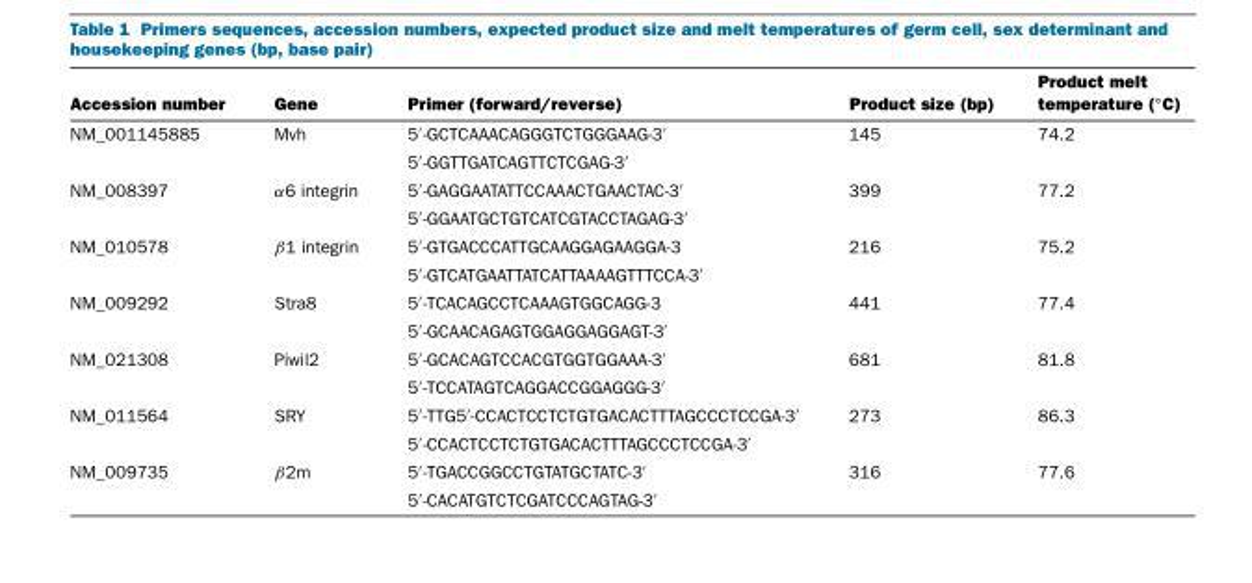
<table><thead><tr><td>Accession number</td><td>Gene</td><td>Primer (forward/reverse)</td><td>Product size (bp)</td><td>Product melt temperature (◦C)</td></tr></thead><tbody><tr><td rowspan="2">NM_001145885</td><td>Mvh</td><td>5′-GCTCAAACAGGGTCTGGGAAG-3′</td><td>145</td><td>74.2</td></tr><tr><td></td><td>5′-GGTTGATCAGTTCTCGAG-3′</td><td></td><td></td></tr><tr><td rowspan="2">NM_008397</td><td>α6 integrin</td><td>5′-GAGGAATATTCCAAACTGAACTAC-3′</td><td>399</td><td>77.2</td></tr><tr><td></td><td>5′-GGAATGCTGTCATCGTACCTAGAG-3′</td><td></td><td></td></tr><tr><td rowspan="2">NM_010578</td><td>β1 integrin</td><td>5′-GTGACCCATTGCAAGGAGAAGGA-3</td><td>216</td><td>75.2</td></tr><tr><td></td><td>5′-GTCATGAATTATCATTAAAAGTTTCCA-3′</td><td></td><td></td></tr><tr><td rowspan="2">NM_009292</td><td>Stra8</td><td>5′-TCACAGCCTCAAAGTGGCAGG-3</td><td>441</td><td>77.4</td></tr><tr><td></td><td>5′-GCAACAGAGTGGAGGAGGAGT-3′</td><td></td><td></td></tr><tr><td rowspan="2">NM_021308</td><td>Piwil2</td><td>5′-GCACAGTCCACGTGGTGGAAA-3′</td><td>681</td><td>81.8</td></tr><tr><td></td><td>5′-TCCATAGTCAGGACCGGAGGG-3′</td><td></td><td></td></tr><tr><td rowspan="2">NM_011564</td><td>SRY</td><td>5′-TTG5′-CCACTCCTCTGTGACACTTTAGCCCTCCGA-3′</td><td>273</td><td>86.3</td></tr><tr><td></td><td>5′-CCACTCCTCTGTGACACTTTAGCCCTCCGA-3′</td><td></td><td></td></tr><tr><td rowspan="2">NM_009735</td><td>β2m</td><td>5′-TGACCGGCCTGTATGCTATC-3′</td><td>316</td><td>77.6</td></tr><tr><td></td><td>5′-CACATGTCTCGATCCCAGTAG-3′</td><td></td><td></td></tr></tbody></table>